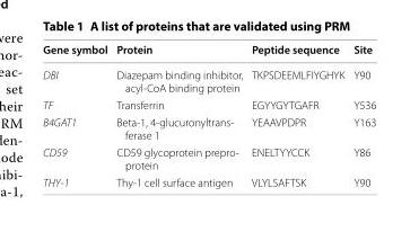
<table><thead><tr><td>Gene symbol</td><td>Protein</td><td>Peptide sequence</td><td>Site</td></tr></thead><tbody><tr><td>DBI</td><td>Diazepam binding inhibitor, acyl-CoA binding protein</td><td>TKPSDEEMLFIYGHYK</td><td>Y90</td></tr><tr><td>TF</td><td>Transferrin</td><td>EGYY GYT GAFR</td><td>Y536</td></tr><tr><td>B4GAT1</td><td>Beta-1, 4-glucuronyltrans- ferase 1</td><td>YEAAVPDPR</td><td>Y163</td></tr><tr><td>CD59</td><td>CD59 glycoprotein prepro- protein</td><td>ENELTYYCCK</td><td>Y86</td></tr><tr><td>THY-1</td><td>Thy-1 cell surface antigen</td><td>VLYLSAFTSK</td><td>Y90</td></tr></tbody></table>